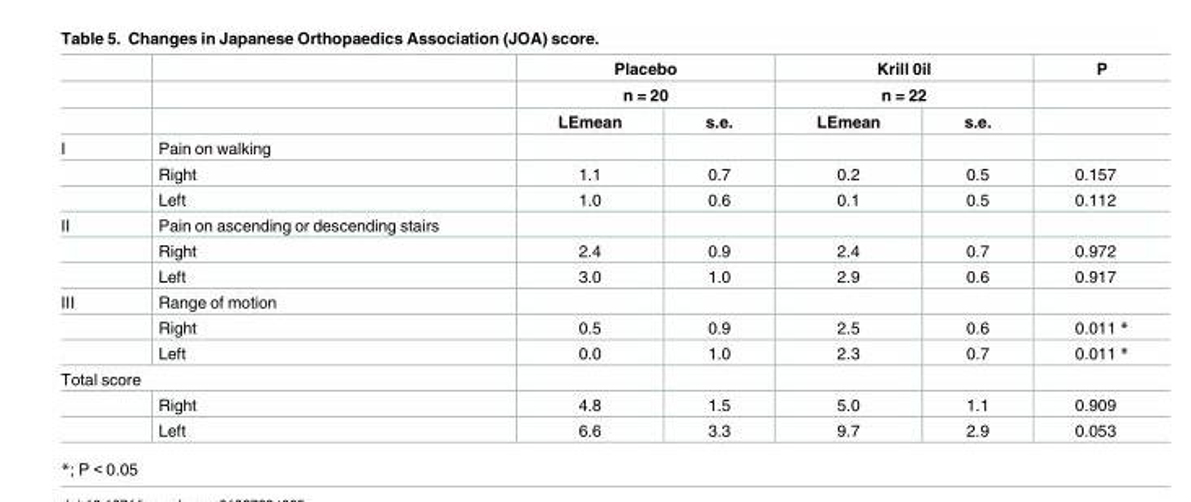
<table><thead><tr><td rowspan="3"></td><td rowspan="3"></td><td rowspan="2" colspan="2">Placebo n = 20</td><td rowspan="2" colspan="2">Krill 0il n = 22</td><td rowspan="3">P</td></tr><tr></tr><tr><td>LEmean</td><td>s.e.</td><td>LEmean</td><td>s.e.</td></tr></thead><tbody><tr><td rowspan="3">I</td><td>Pain on walking</td><td></td><td></td><td></td><td></td><td></td></tr><tr><td>Right</td><td>1.1</td><td>0.7</td><td>0.2</td><td>0.5</td><td>0.157</td></tr><tr><td>Left</td><td>1.0</td><td>0.6</td><td>0.1</td><td>0.5</td><td>0.112</td></tr><tr><td rowspan="3">II</td><td>Pain on ascending or descending stairs</td><td></td><td></td><td></td><td></td><td></td></tr><tr><td>Right</td><td>2.4</td><td>0.9</td><td>2.4</td><td>0.7</td><td>0.972</td></tr><tr><td>Left</td><td>3.0</td><td>1.0</td><td>2.9</td><td>0.6</td><td>0.917</td></tr><tr><td rowspan="3">III</td><td>Range of motion</td><td></td><td></td><td></td><td></td><td></td></tr><tr><td>Right</td><td>0.5</td><td>0.9</td><td>2.5</td><td>0.6</td><td>0.011 *</td></tr><tr><td>Left</td><td>0.0</td><td>1.0</td><td>2.3</td><td>0.7</td><td>0.011 *</td></tr><tr><td colspan="7">Total score</td></tr><tr><td></td><td>Right</td><td>4.8</td><td>1.5</td><td>5.0</td><td>1.1</td><td>0.909</td></tr><tr><td></td><td>Left</td><td>6.6</td><td>3.3</td><td>9.7</td><td>2.9</td><td>0.053</td></tr></tbody></table>